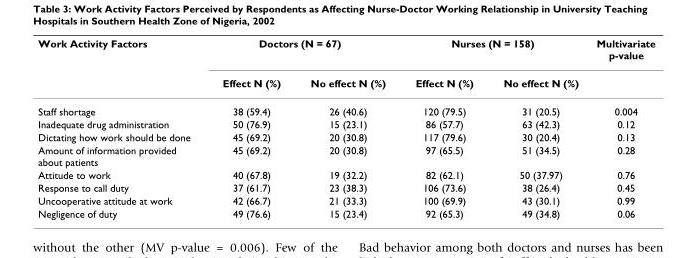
<table><thead><tr><td rowspan="2">Work Activity Factors</td><td colspan="2">Doctors (N = 67)</td><td colspan="2">Nurses (N = 158)</td><td rowspan="2">Multivariate p-value</td></tr><tr><td>Effect N (%)</td><td>No effect N (%)</td><td>Effect N (%)</td><td>No effect N (%)</td></tr></thead><tbody><tr><td>Staff shortage</td><td>38 (59.4)</td><td>26 (40.6)</td><td>120 (79.5)</td><td>31 (20.5)</td><td>0.004</td></tr><tr><td>Inadequate drug administration</td><td>50 (76.9)</td><td>15 (23.1)</td><td>86 (57.7)</td><td>63 (42.3)</td><td>0.12</td></tr><tr><td>Dictating how work should be done</td><td>45 (69.2)</td><td>20 (30.8)</td><td>117 (79.6)</td><td>30 (20.4)</td><td>0.13</td></tr><tr><td>Amount of information provided about patients</td><td>45 (69.2)</td><td>20 (30.8)</td><td>97 (65.5)</td><td>51 (34.5)</td><td>0.28</td></tr><tr><td>Attitude to work</td><td>40 (67.8)</td><td>19 (32.2)</td><td>82 (62.1)</td><td>50 (37.97)</td><td>0.76</td></tr><tr><td>Response to call duty</td><td>37 (61.7)</td><td>23 (38.3)</td><td>106 (73.6)</td><td>38 (26.4)</td><td>0.45</td></tr><tr><td>Uncooperative attitude at work</td><td>42 (66.7)</td><td>21 (33.3)</td><td>100 (69.9)</td><td>43 (30.1)</td><td>0.99</td></tr><tr><td>Negligence of duty</td><td>49 (76.6)</td><td>15 (23.4)</td><td>92 (65.3)</td><td>49 (34.8)</td><td>0.06</td></tr></tbody></table>